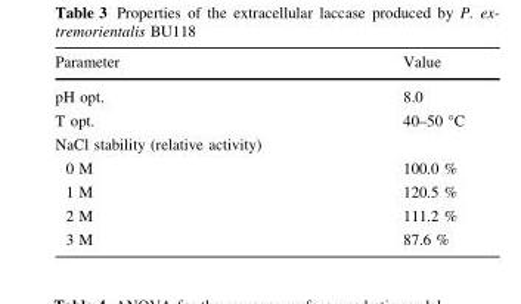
<table><thead><tr><td>Parameter</td><td>Value</td></tr></thead><tbody><tr><td>pH opt.</td><td>8.0</td></tr><tr><td>T opt.</td><td>40–50 °C</td></tr><tr><td colspan="2">NaCl stability (relative activity)</td></tr><tr><td>0 M</td><td>100.0 %</td></tr><tr><td>1 M</td><td>120.5 %</td></tr><tr><td>2 M</td><td>111.2 %</td></tr><tr><td>3 M</td><td>87.6 %</td></tr></tbody></table>